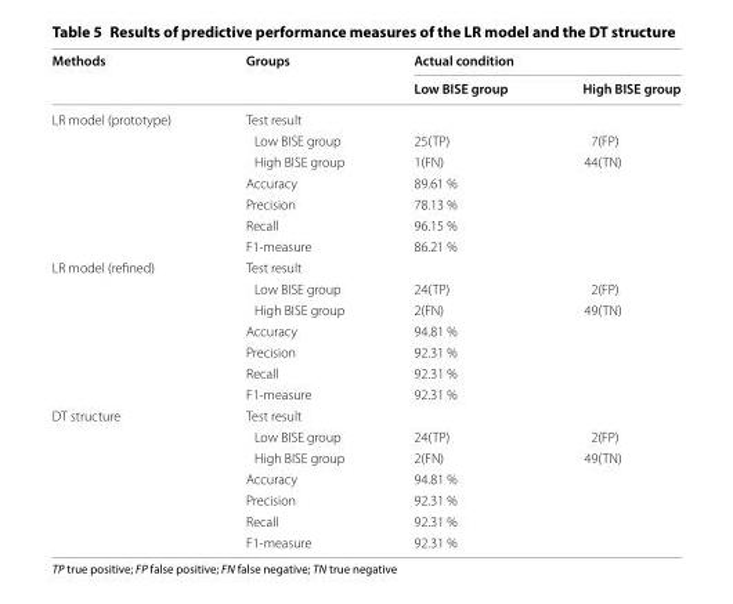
<table><thead><tr><td rowspan="2">Methods</td><td rowspan="2">Groups</td><td colspan="2">Actual condition</td></tr><tr><td>Low BISE group</td><td>High BISE group</td></tr></thead><tbody><tr><td rowspan="7">LR model (prototype)</td><td colspan="3">Test result</td></tr><tr><td>Low BISE group</td><td>25(TP)</td><td>7(FP)</td></tr><tr><td>High BISE group</td><td>1(FN)</td><td>44(TN)</td></tr><tr><td>Accuracy</td><td colspan="2">89.61 %</td></tr><tr><td>Precision</td><td colspan="2">78.13 %</td></tr><tr><td>Recall</td><td colspan="2">96.15 %</td></tr><tr><td>F1‑measure</td><td colspan="2">86.21 %</td></tr><tr><td rowspan="7">LR model (refined)</td><td colspan="3">Test result</td></tr><tr><td>Low BISE group</td><td>24(TP)</td><td>2(FP)</td></tr><tr><td>High BISE group</td><td>2(FN)</td><td>49(TN)</td></tr><tr><td>Accuracy</td><td colspan="2">94.81 %</td></tr><tr><td>Precision</td><td colspan="2">92.31 %</td></tr><tr><td>Recall</td><td colspan="2">92.31 %</td></tr><tr><td>F1‑measure</td><td colspan="2">92.31 %</td></tr><tr><td rowspan="7">DT structure</td><td colspan="3">Test result</td></tr><tr><td>Low BISE group</td><td>24(TP)</td><td>2(FP)</td></tr><tr><td>High BISE group</td><td>2(FN)</td><td>49(TN)</td></tr><tr><td>Accuracy</td><td colspan="2">94.81 %</td></tr><tr><td>Precision</td><td colspan="2">92.31 %</td></tr><tr><td>Recall</td><td colspan="2">92.31 %</td></tr><tr><td>F1‑measure</td><td colspan="2">92.31 %</td></tr></tbody></table>